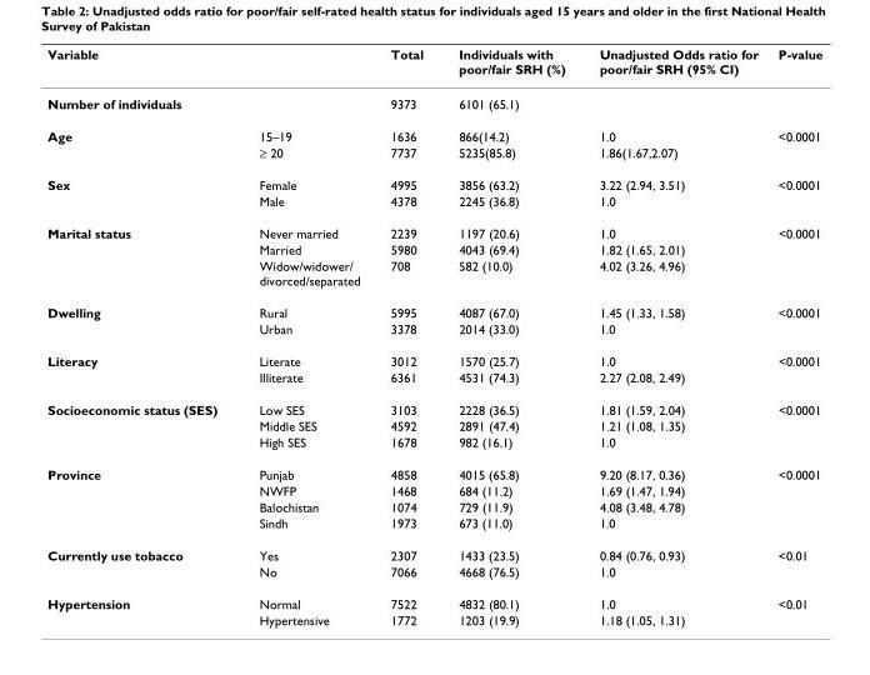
<table><thead><tr><td>Variable</td><td></td><td>Total</td><td>Individuals with poor/fair SRH (%)</td><td>Unadjusted Odds ratio for poor/fair SRH (95% CI)</td><td>P-value</td></tr></thead><tbody><tr><td>Number of individuals</td><td></td><td>9373</td><td>6101 (65.1)</td><td></td><td></td></tr><tr><td rowspan="2">Age</td><td>15–19</td><td>1636</td><td>866(14.2)</td><td>1.0</td><td>&lt;0.0001</td></tr><tr><td>≥ 20</td><td>7737</td><td>5235(85.8)</td><td>1.86(1.67,2.07)</td><td></td></tr><tr><td rowspan="2">Sex</td><td>Female</td><td>4995</td><td>3856 (63.2)</td><td>3.22 (2.94, 3.51)</td><td>&lt;0.0001</td></tr><tr><td>Male</td><td>4378</td><td>2245 (36.8)</td><td>1.0</td><td></td></tr><tr><td rowspan="3">Marital status</td><td>Never married</td><td>2239</td><td>1197 (20.6)</td><td>1.0</td><td>&lt;0.0001</td></tr><tr><td>Married</td><td>5980</td><td>4043 (69.4)</td><td>1.82 (1.65, 2.01)</td><td></td></tr><tr><td>Widow/widower/ divorced/separated</td><td>708</td><td>582 (10.0)</td><td>4.02 (3.26, 4.96)</td><td></td></tr><tr><td rowspan="2">Dwelling</td><td>Rural</td><td>5995</td><td>4087 (67.0)</td><td>1.45 (1.33, 1.58)</td><td>&lt;0.0001</td></tr><tr><td>Urban</td><td>3378</td><td>2014 (33.0)</td><td>1.0</td><td></td></tr><tr><td rowspan="2">Literacy</td><td>Literate</td><td>3012</td><td>1570 (25.7)</td><td>1.0</td><td>&lt;0.0001</td></tr><tr><td>Illiterate</td><td>6361</td><td>4531 (74.3)</td><td>2.27 (2.08, 2.49)</td><td></td></tr><tr><td rowspan="3">Socioeconomic status (SES)</td><td>Low SES</td><td>3103</td><td>2228 (36.5)</td><td>1.81 (1.59, 2.04)</td><td>&lt;0.0001</td></tr><tr><td>Middle SES</td><td>4592</td><td>2891 (47.4)</td><td>1.21 (1.08, 1.35)</td><td></td></tr><tr><td>High SES</td><td>1678</td><td>982 (16.1)</td><td>1.0</td><td></td></tr><tr><td rowspan="4">Province</td><td>Punjab</td><td>4858</td><td>4015 (65.8)</td><td>9.20 (8.17, 0.36)</td><td>&lt;0.0001</td></tr><tr><td>NWFP</td><td>1468</td><td>684 (11.2)</td><td>1.69 (1.47, 1.94)</td><td></td></tr><tr><td>Balochistan</td><td>1074</td><td>729 (11.9)</td><td>4.08 (3.48, 4.78)</td><td></td></tr><tr><td>Sindh</td><td>1973</td><td>673 (11.0)</td><td>1.0</td><td></td></tr><tr><td rowspan="2">Currently use tobacco</td><td>Yes</td><td>2307</td><td>1433 (23.5)</td><td>0.84 (0.76, 0.93)</td><td>&lt;0.01</td></tr><tr><td>No</td><td>7066</td><td>4668 (76.5)</td><td>1.0</td><td></td></tr><tr><td rowspan="2">Hypertension</td><td>Normal</td><td>7522</td><td>4832 (80.1)</td><td>1.0</td><td>&lt;0.01</td></tr><tr><td>Hypertensive</td><td>1772</td><td>1203 (19.9)</td><td>1.18 (1.05, 1.31)</td><td></td></tr></tbody></table>